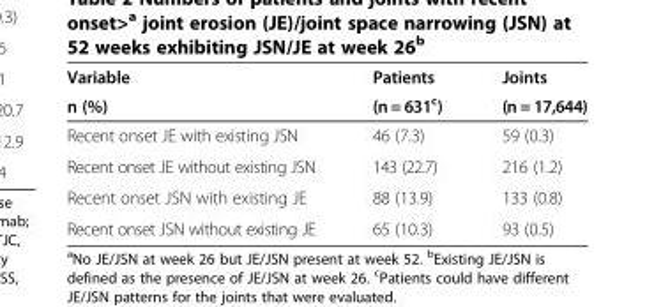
<table><thead><tr><td rowspan="2">Variable n (%)</td><td rowspan="2">Patients (n = 631<sup>c</sup>)</td><td rowspan="2">Joints (n = 17,644)</td></tr><tr></tr></thead><tbody><tr><td>Recent onset JE with existing JSN</td><td>46 (7.3)</td><td>59 (0.3)</td></tr><tr><td>Recent onset JE without existing JSN</td><td>143 (22.7)</td><td>216 (1.2)</td></tr><tr><td>Recent onset JSN with existing JE</td><td>88 (13.9)</td><td>133 (0.8)</td></tr><tr><td>Recent onset JSN without existing JE</td><td>65 (10.3)</td><td>93 (0.5)</td></tr></tbody></table>